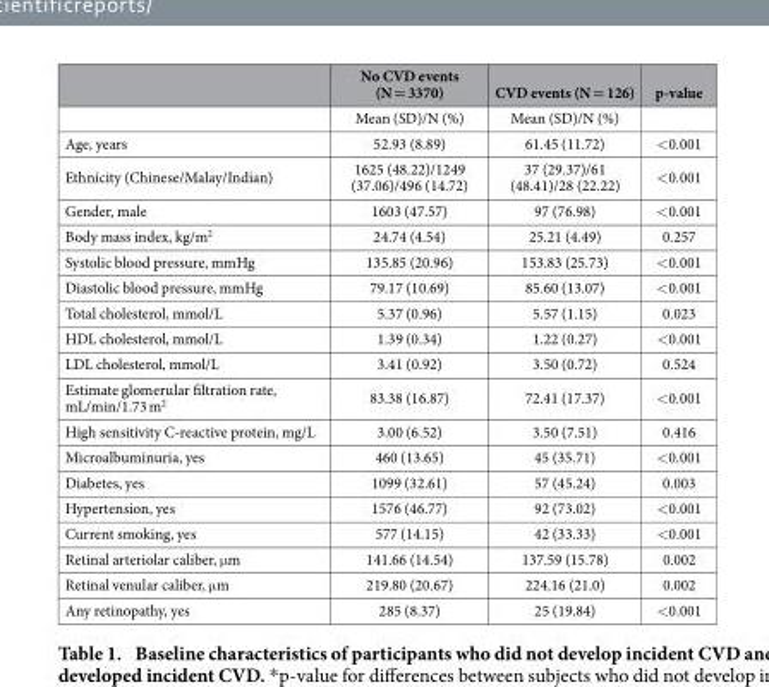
<table><thead><tr><td></td><td>No CVD events (N = 3370)</td><td>CVD events (N = 126)</td><td>p-value</td></tr></thead><tbody><tr><td></td><td>Mean (SD)/N (%)</td><td>Mean (SD)/N (%)</td><td></td></tr><tr><td>Age, years</td><td>52.93 (8.89)</td><td>61.45 (11.72)</td><td>&lt; 0.001</td></tr><tr><td>Ethnicity (Chinese/Malay/Indian)</td><td>1625 (48.22)/1249 (37.06)/496 (14.72)</td><td>37 (29.37)/61 (48.41)/28 (22.22)</td><td>&lt; 0.001</td></tr><tr><td>Gender, male</td><td>1603 (47.57)</td><td>97 (76.98)</td><td>&lt; 0.001</td></tr><tr><td>Body mass index, kg/m<sup>2</sup></td><td>24.74 (4.54)</td><td>25.21 (4.49)</td><td>0.257</td></tr><tr><td>Systolic blood pressure, mmHg</td><td>135.85 (20.96)</td><td>153.83 (25.73)</td><td>&lt; 0.001</td></tr><tr><td>Diastolic blood pressure, mmHg</td><td>79.17 (10.69)</td><td>85.60 (13.07)</td><td>&lt; 0.001</td></tr><tr><td>Total cholesterol, mmol/L</td><td>5.37 (0.96)</td><td>5.57 (1.15)</td><td>0.023</td></tr><tr><td>HDL cholesterol, mmol/L</td><td>1.39 (0.34)</td><td>1.22 (0.27)</td><td>&lt; 0.001</td></tr><tr><td>LDL cholesterol, mmol/L</td><td>3.41 (0.92)</td><td>3.50 (0.72)</td><td>0.524</td></tr><tr><td>Estimate glomerular filtration rate, mL/min/1.73 m<sup>2</sup></td><td>83.38 (16.87)</td><td>72.41 (17.37)</td><td>&lt; 0.001</td></tr><tr><td>High sensitivity C-reactive protein, mg/L</td><td>3.00 (6.52)</td><td>3.50 (7.51)</td><td>0.416</td></tr><tr><td>Microalbuminuria, yes</td><td>460 (13.65)</td><td>45 (35.71)</td><td>&lt; 0.001</td></tr><tr><td>Diabetes, yes</td><td>1099 (32.61)</td><td>57 (45.24)</td><td>0.003</td></tr><tr><td>Hypertension, yes</td><td>1576 (46.77)</td><td>92 (73.02)</td><td>&lt; 0.001</td></tr><tr><td>Current smoking, yes</td><td>577 (14.15)</td><td>42 (33.33)</td><td>&lt; 0.001</td></tr><tr><td>Retinal arteriolar caliber, μ m</td><td>141.66 (14.54)</td><td>137.59 (15.78)</td><td>0.002</td></tr><tr><td>Retinal venular caliber, μ m</td><td>219.80 (20.67)</td><td>224.16 (21.0)</td><td>0.002</td></tr><tr><td>Any retinopathy, yes</td><td>285 (8.37)</td><td>25 (19.84)</td><td>&lt; 0.001</td></tr></tbody></table>